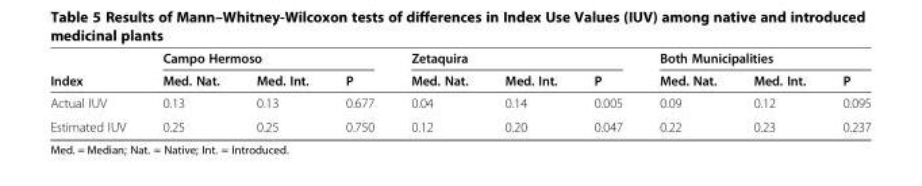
<table><thead><tr><td rowspan="2">Index</td><td colspan="3">Campo Hermoso</td><td colspan="3">Zetaquira</td><td colspan="3">Both Municipalities</td></tr><tr><td>Med. Nat.</td><td>Med. Int.</td><td>P</td><td>Med. Nat.</td><td>Med. Int.</td><td>P</td><td>Med. Nat.</td><td>Med. Int.</td><td>P</td></tr></thead><tbody><tr><td>Actual IUV</td><td>0.13</td><td>0.13</td><td>0.677</td><td>0.04</td><td>0.14</td><td>0.005</td><td>0.09</td><td>0.12</td><td>0.095</td></tr><tr><td>Estimated IUV</td><td>0.25</td><td>0.25</td><td>0.750</td><td>0.12</td><td>0.20</td><td>0.047</td><td>0.22</td><td>0.23</td><td>0.237</td></tr></tbody></table>